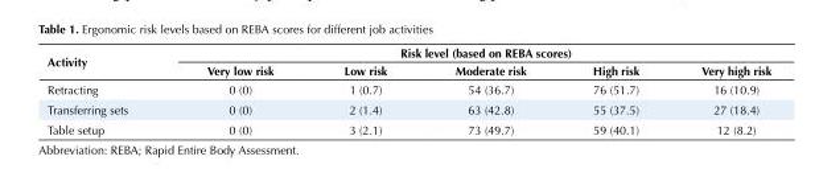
<table><tbody><tr><td rowspan="2">Activity</td><td colspan="5">Risk level (based on REBA scores)</td></tr><tr><td>Very low risk</td><td>Low risk</td><td>Moderate risk</td><td>High risk</td><td>Very high risk</td></tr><tr><td>Retracting</td><td>0 (0)</td><td>1 (0.7)</td><td>54 (36.7)</td><td>76 (51.7)</td><td>16 (10.9)</td></tr><tr><td>Transferring sets</td><td>0 (0)</td><td>2 (1.4)</td><td>63 (42.8)</td><td>55 (37.5)</td><td>27 (18.4)</td></tr><tr><td>Table setup</td><td>0 (0)</td><td>3 (2.1)</td><td>73 (49.7)</td><td>59 (40.1)</td><td>12 (8.2)</td></tr></tbody></table>